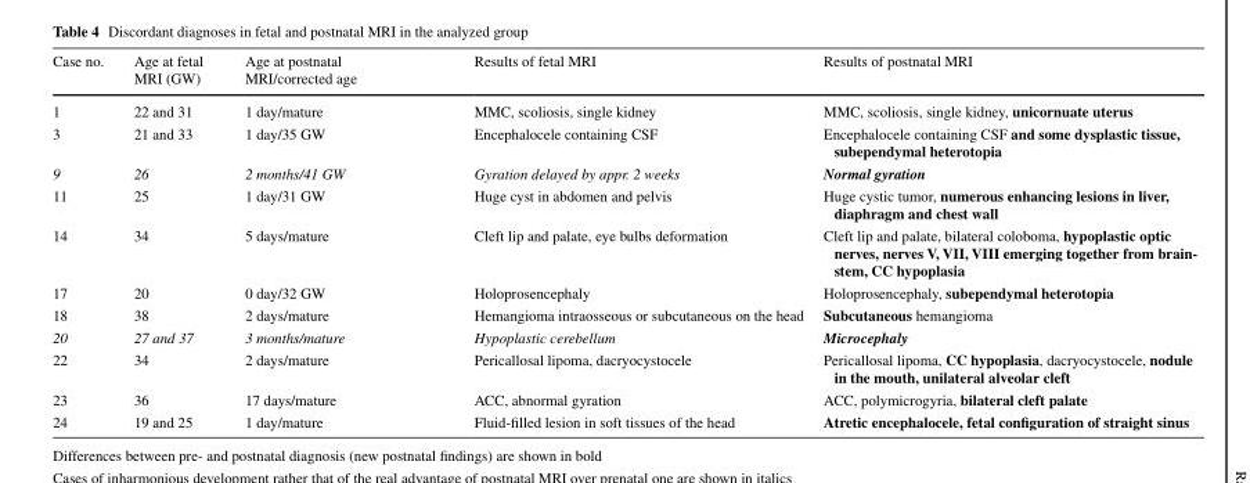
<table><thead><tr><td>Case no.</td><td>Age at fetal MRI (GW)</td><td>Age at postnatal MRI/corrected age</td><td>Results of fetal MRI</td><td>Results of postnatal MRI</td></tr></thead><tbody><tr><td>1</td><td>22 and 31</td><td>1 day/mature</td><td>MMC, scoliosis, single kidney</td><td>MMC, scoliosis, single kidney, unicornuate uterus</td></tr><tr><td>3</td><td>21 and 33</td><td>1 day/35 GW</td><td>Encephalocele containing CSF</td><td>Encephalocele containing CSF and some dysplastic tissue, subependymal heterotopia</td></tr><tr><td>9</td><td>26</td><td>2 months/41 GW</td><td>Gyration delayed by appr. 2 weeks</td><td>Normal gyration</td></tr><tr><td>11</td><td>25</td><td>1 day/31 GW</td><td>Huge cyst in abdomen and pelvis</td><td>Huge cystic tumor, numerous enhancing lesions in liver, diaphragm and chest wall</td></tr><tr><td>14</td><td>34</td><td>5 days/mature</td><td>Cleft lip and palate, eye bulbs deformation</td><td>Cleft lip and palate, bilateral coloboma, hypoplastic optic nerves, nerves V, VII, VIII emerging together from brain‑ stem, CC hypoplasia</td></tr><tr><td>17</td><td>20</td><td>0 day/32 GW</td><td>Holoprosencephaly</td><td>Holoprosencephaly, subependymal heterotopia</td></tr><tr><td>18</td><td>38</td><td>2 days/mature</td><td>Hemangioma intraosseous or subcutaneous on the head</td><td>Subcutaneous hemangioma</td></tr><tr><td>20</td><td>27 and 37</td><td>3 months/mature</td><td>Hypoplastic cerebellum</td><td>Microcephaly</td></tr><tr><td>22</td><td>34</td><td>2 days/mature</td><td>Pericallosal lipoma, dacryocystocele</td><td>Pericallosal lipoma, CC hypoplasia, dacryocystocele, nodule in the mouth, unilateral alveolar cleft</td></tr><tr><td>23</td><td>36</td><td>17 days/mature</td><td>ACC, abnormal gyration</td><td>ACC, polymicrogyria, bilateral cleft palate</td></tr><tr><td>24</td><td>19 and 25</td><td>1 day/mature</td><td>Fluid-filled lesion in soft tissues of the head</td><td>Atretic encephalocele, fetal configuration of straight sinus</td></tr></tbody></table>